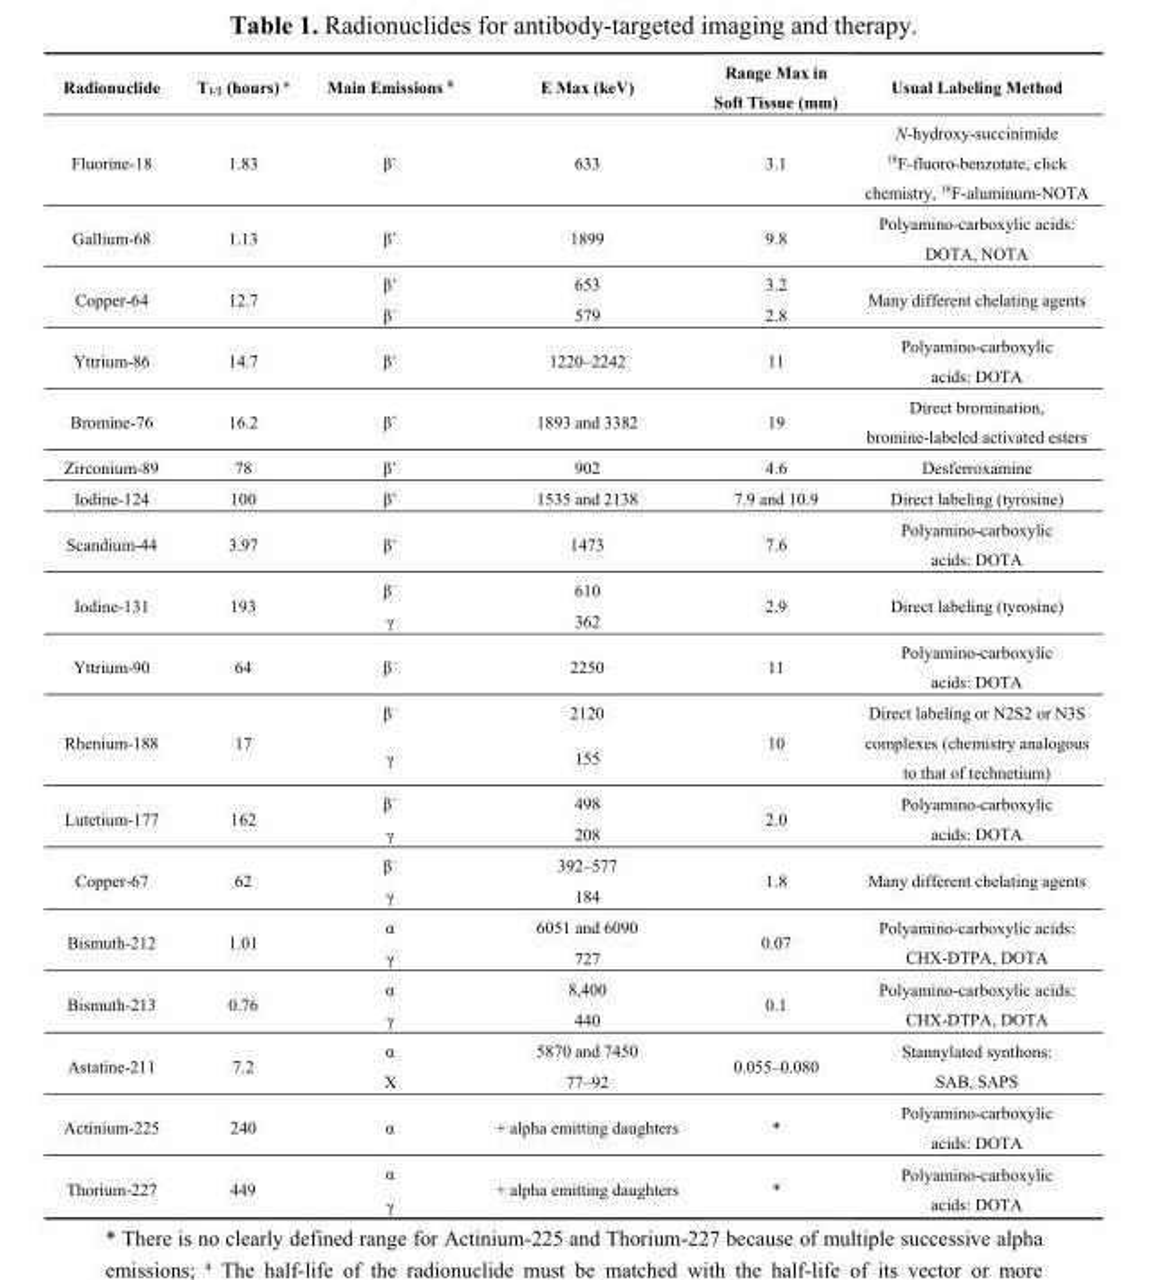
<table><thead><tr><td>Radionuclide</td><td>T<sub>1/2</sub> (hours) <sup>a</sup></td><td>Main Emissions <sup>b</sup></td><td>E Max (keV)</td><td>Range Max in Soft Tissue (mm)</td><td>Usual Labeling Method</td></tr></thead><tbody><tr><td>Fluorine-18</td><td>1.83</td><td>β<sup>+</sup></td><td>633</td><td>3.1</td><td>N-hydroxy-succinimide <sup>18</sup>F-fluoro-benzotate, click chemistry, <sup>18</sup>F-aluminum-NOTA</td></tr><tr><td>Gallium-68</td><td>1.13</td><td>β<sup>+</sup></td><td>1899</td><td>9.8</td><td>Polyamino-carboxylic acids: DOTA, NOTA</td></tr><tr><td rowspan="2">Copper-64</td><td rowspan="2">12.7</td><td>β<sup>+</sup></td><td>653</td><td>3.2</td><td rowspan="2">Many different chelating agents</td></tr><tr><td>β<sup>−</sup></td><td>579</td><td>2.8</td></tr><tr><td>Yttrium-86</td><td>14.7</td><td>β<sup>+</sup></td><td>1220–2242</td><td>11</td><td>Polyamino-carboxylic acids: DOTA</td></tr><tr><td>Bromine-76</td><td>16.2</td><td>β<sup>+</sup></td><td>1893 and 3382</td><td>19</td><td>Direct bromination, bromine-labeled activated esters</td></tr><tr><td>Zirconium-89</td><td>78</td><td>β<sup>+</sup></td><td>902</td><td>4.6</td><td>Desferroxamine</td></tr><tr><td>Iodine-124</td><td>100</td><td>β<sup>+</sup></td><td>1535 and 2138</td><td>7.9 and 10.9</td><td>Direct labeling (tyrosine)</td></tr><tr><td>Scandium-44</td><td>3.97</td><td>β<sup>+</sup></td><td>1473</td><td>7.6</td><td>Polyamino-carboxylic acids: DOTA</td></tr><tr><td rowspan="2">Iodine-131</td><td rowspan="2">193</td><td>β<sup>−</sup></td><td>610</td><td rowspan="2">2.9</td><td rowspan="2">Direct labeling (tyrosine)</td></tr><tr><td>γ</td><td>362</td></tr><tr><td>Yttrium-90</td><td>64</td><td>β<sup>−</sup></td><td>2250</td><td>11</td><td>Polyamino-carboxylic acids: DOTA</td></tr><tr><td rowspan="2">Rhenium-188</td><td rowspan="2">17</td><td>β<sup>−</sup></td><td>2120</td><td rowspan="2">10</td><td rowspan="2">Direct labeling or N2S2 or N3S complexes (chemistry analogous to that of technetium)</td></tr><tr><td>γ</td><td>155</td></tr><tr><td rowspan="2">Lutetium-177</td><td rowspan="2">162</td><td>β<sup>−</sup></td><td>498</td><td rowspan="2">2.0</td><td rowspan="2">Polyamino-carboxylic acids: DOTA</td></tr><tr><td>γ</td><td>208</td></tr><tr><td rowspan="2">Copper-67</td><td rowspan="2">62</td><td>β<sup>−</sup></td><td>392–577</td><td rowspan="2">1.8</td><td rowspan="2">Many different chelating agents</td></tr><tr><td>γ</td><td>184</td></tr><tr><td rowspan="2">Bismuth-212</td><td rowspan="2">1.01</td><td>α</td><td>6051 and 6090</td><td rowspan="2">0.07</td><td rowspan="2">Polyamino-carboxylic acids: CHX-DTPA, DOTA</td></tr><tr><td>γ</td><td>727</td></tr><tr><td rowspan="2">Bismuth-213</td><td rowspan="2">0.76</td><td>α</td><td>8,400</td><td rowspan="2">0.1</td><td rowspan="2">Polyamino-carboxylic acids: CHX-DTPA, DOTA</td></tr><tr><td>γ</td><td>440</td></tr><tr><td rowspan="2">Astatine-211</td><td rowspan="2">7.2</td><td>α</td><td>5870 and 7450</td><td rowspan="2">0.055–0.080</td><td rowspan="2">Stannylated synthons: SAB, SAPS</td></tr><tr><td>X</td><td>77–92</td></tr><tr><td>Actinium-225</td><td>240</td><td>α</td><td>+ alpha emitting daughters</td><td>*</td><td>Polyamino-carboxylic acids: DOTA</td></tr><tr><td rowspan="2">Thorium-227</td><td rowspan="2">449</td><td>α</td><td rowspan="2">+ alpha emitting daughters</td><td rowspan="2">*</td><td rowspan="2">Polyamino-carboxylic acids: DOTA</td></tr><tr><td>γ</td></tr></tbody></table>